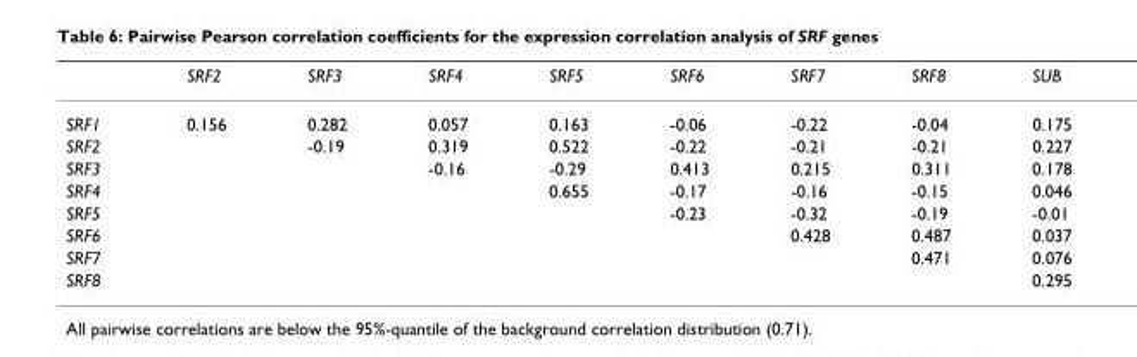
<table><thead><tr><td></td><td>SRF2</td><td>SRF3</td><td>SRF4</td><td>SRF5</td><td>SRF6</td><td>SRF7</td><td>SRF8</td><td>SUB</td></tr></thead><tbody><tr><td>SRF1</td><td>0.156</td><td>0.282</td><td>0.057</td><td>0.163</td><td>-0.06</td><td>-0.22</td><td>-0.04</td><td>0.175</td></tr><tr><td>SRF2</td><td></td><td>-0.19</td><td>0.319</td><td>0.522</td><td>-0.22</td><td>-0.21</td><td>-0.21</td><td>0.227</td></tr><tr><td>SRF3</td><td></td><td></td><td>-0.16</td><td>-0.29</td><td>0.413</td><td>0.215</td><td>0.311</td><td>0.178</td></tr><tr><td>SRF4</td><td></td><td></td><td></td><td>0.655</td><td>-0.17</td><td>-0.16</td><td>-0.15</td><td>0.046</td></tr><tr><td>SRF5</td><td></td><td></td><td></td><td></td><td>-0.23</td><td>-0.32</td><td>-0.19</td><td>-0.01</td></tr><tr><td>SRF6</td><td></td><td></td><td></td><td></td><td></td><td>0.428</td><td>0.487</td><td>0.037</td></tr><tr><td>SRF7</td><td></td><td></td><td></td><td></td><td></td><td></td><td>0.471</td><td>0.076</td></tr><tr><td>SRF8</td><td></td><td></td><td></td><td></td><td></td><td></td><td></td><td>0.295</td></tr></tbody></table>